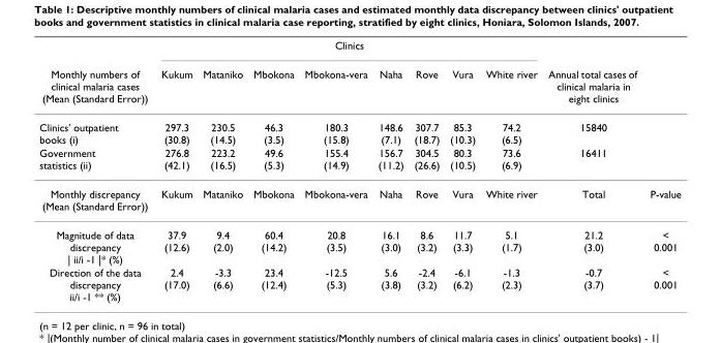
<table><thead><tr><td rowspan="2">Monthly numbers of clinical malaria cases (Mean (Standard Error))</td><td colspan="8">Clinics</td><td rowspan="2">Annual total cases of clinical malaria in eight clinics</td><td rowspan="2"></td></tr><tr><td>Kukum</td><td>Mataniko</td><td>Mbokona</td><td>Mbokona-vera</td><td>Naha</td><td>Rove</td><td>Vura</td><td>White river</td></tr></thead><tbody><tr><td>Clinics&#x27; outpatient books (i)</td><td>297.3 (30.8)</td><td>230.5 (14.5)</td><td>46.3 (3.5)</td><td>180.3 (15.8)</td><td>148.6 (7.1)</td><td>307.7 (18.7)</td><td>85.3 (10.3)</td><td>74.2 (6.5)</td><td>15840</td><td></td></tr><tr><td>Government statistics (ii)</td><td>276.8 (42.1)</td><td>223.2 (16.5)</td><td>49.6 (5.3)</td><td>155.4 (14.9)</td><td>156.7 (11.2)</td><td>304.5 (26.6)</td><td>80.3 (10.5)</td><td>73.6 (6.9)</td><td>16411</td><td></td></tr><tr><td>Monthly discrepancy (Mean (Standard Error))</td><td>Kukum</td><td>Mataniko</td><td>Mbokona</td><td>Mbokona-vera</td><td>Naha</td><td>Rove</td><td>Vura</td><td>White river</td><td>Total</td><td>P-value</td></tr><tr><td>Magnitude of data discrepancy | ii/i -1 |* (%)</td><td>37.9 (12.6)</td><td>9.4 (2.0)</td><td>60.4 (14.2)</td><td>20.8 (3.5)</td><td>16.1 (3.0)</td><td>8.6 (3.2)</td><td>11.7 (3.3)</td><td>5.1 (1.7)</td><td>21.2 (3.0)</td><td>&lt; 0.001</td></tr><tr><td>Direction of the data discrepancy ii/i -1 ** (%)</td><td>2.4 (17.0)</td><td>-3.3 (6.6)</td><td>23.4 (12.4)</td><td>-12.5 (5.3)</td><td>5.6 (3.8)</td><td>-2.4 (3.2)</td><td>-6.1 (6.2)</td><td>-1.3 (2.3)</td><td>-0.7 (3.7)</td><td>&lt; 0.001</td></tr></tbody></table>